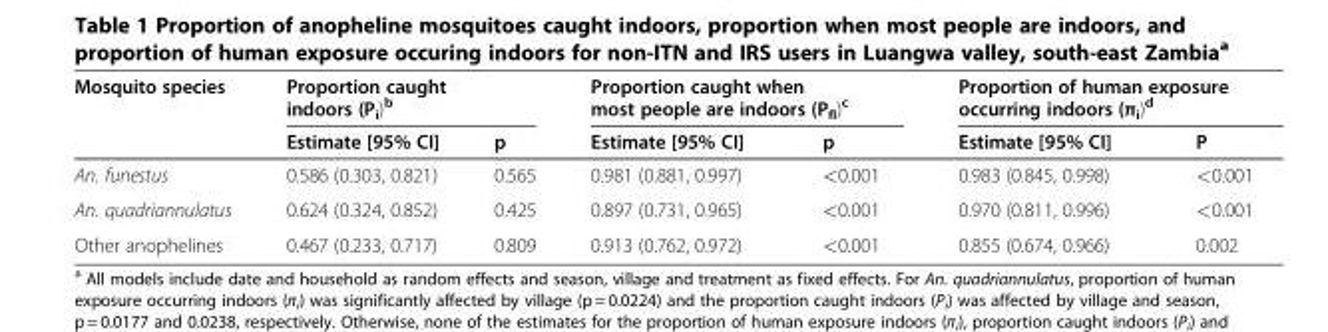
<table><thead><tr><td rowspan="2">Mosquito species</td><td colspan="2">Proportion caught indoors (P<sub>i</sub>)<sup>b</sup></td><td colspan="2">Proportion caught when most people are indoors (P<sub>fl</sub>)<sup>c</sup></td><td colspan="2">Proportion of human exposure occurring indoors (π<sub>i</sub>)<sup>d</sup></td></tr><tr><td>Estimate [95% CI]</td><td>p</td><td>Estimate [95% CI]</td><td>p</td><td>Estimate [95% CI]</td><td>P</td></tr></thead><tbody><tr><td>An. funestus</td><td>0.586 (0.303, 0.821)</td><td>0.565</td><td>0.981 (0.881, 0.997)</td><td>&lt;0.001</td><td>0.983 (0.845, 0.998)</td><td>&lt;0.001</td></tr><tr><td>An. quadriannulatus</td><td>0.624 (0.324, 0.852)</td><td>0.425</td><td>0.897 (0.731, 0.965)</td><td>&lt;0.001</td><td>0.970 (0.811, 0.996)</td><td>&lt;0.001</td></tr><tr><td>Other anophelines</td><td>0.467 (0.233, 0.717)</td><td>0.809</td><td>0.913 (0.762, 0.972)</td><td>&lt;0.001</td><td>0.855 (0.674, 0.966)</td><td>0.002</td></tr></tbody></table>